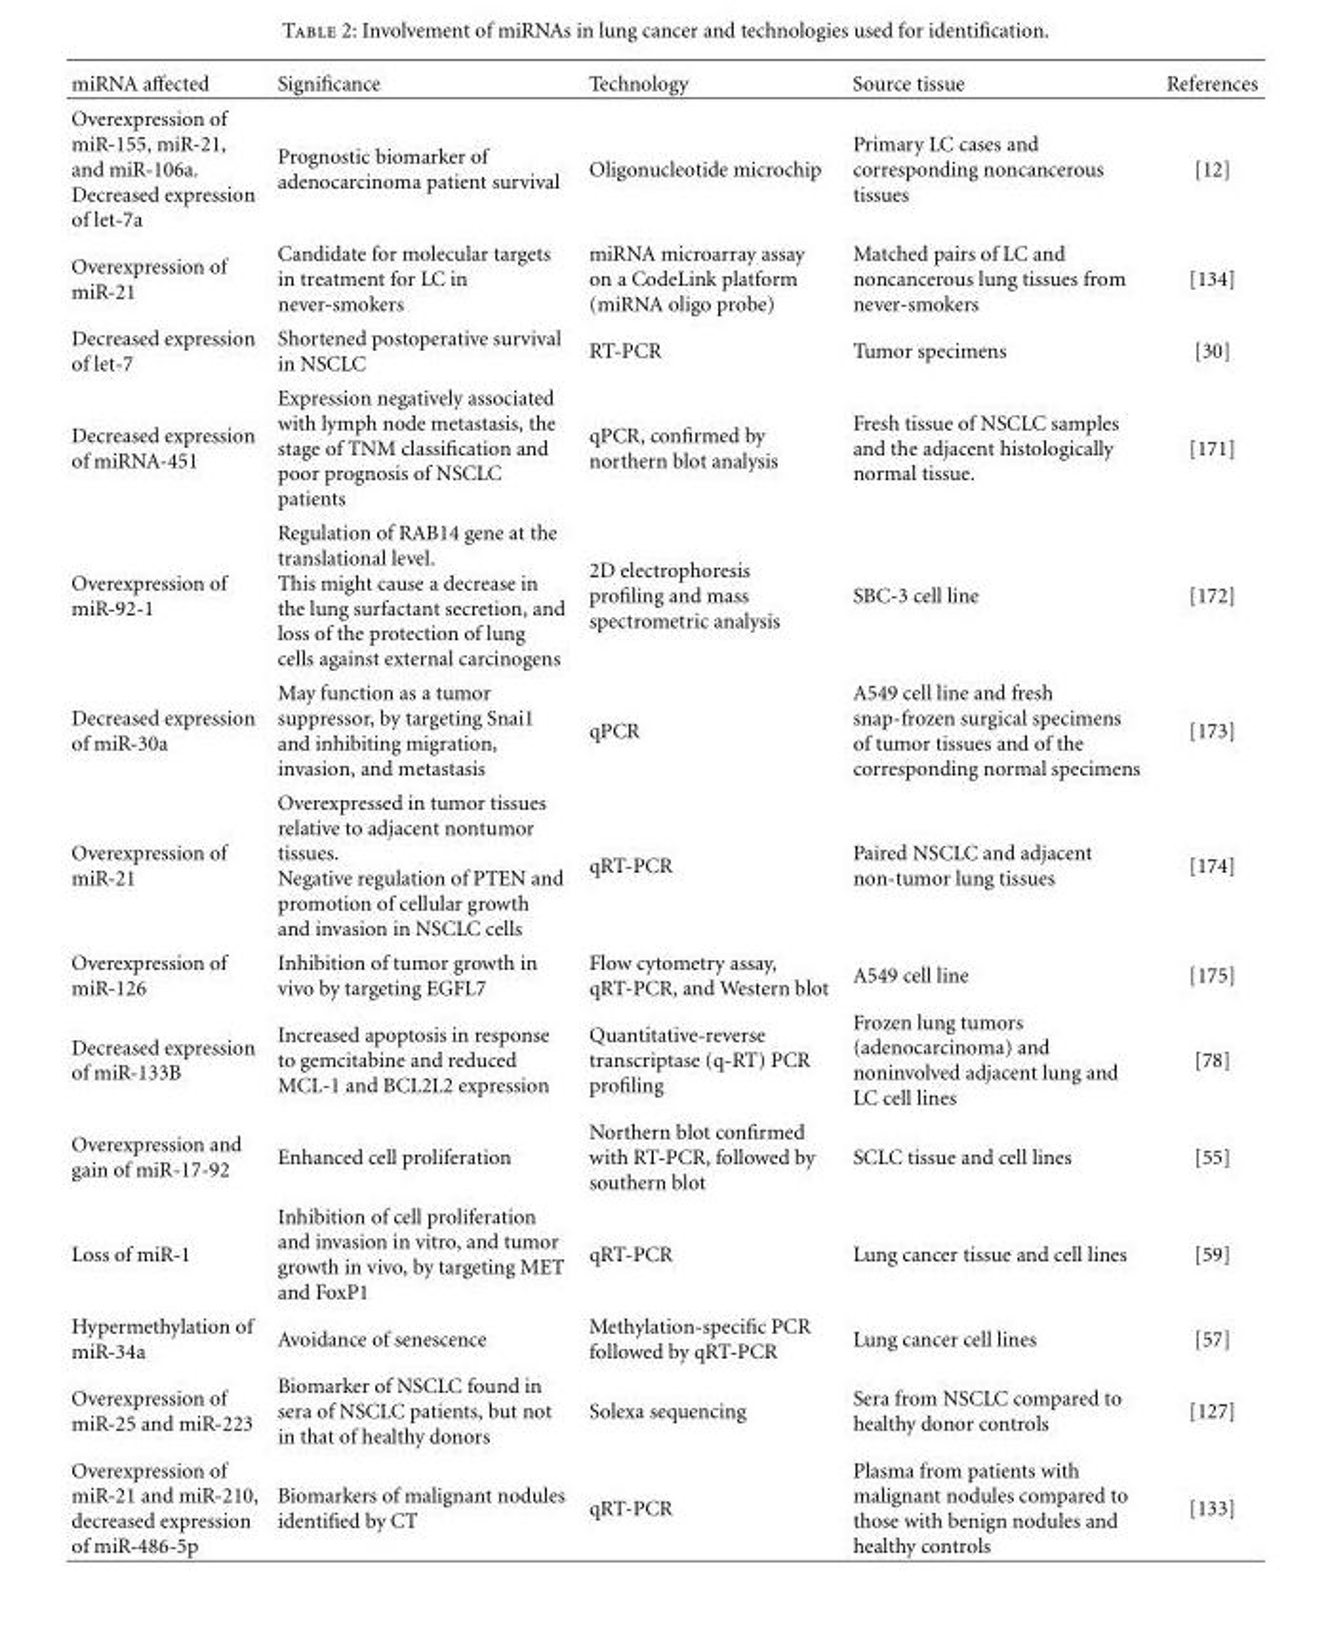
<table><thead><tr><td>miRNA affected</td><td>Significance</td><td>Technology</td><td>Source tissue</td><td>References</td></tr></thead><tbody><tr><td>Overexpression of miR-155, miR-21, and miR-106a. Decreased expression of let-7a</td><td>Prognostic biomarker of adenocarcinoma patient survival</td><td>Oligonucleotide microchip</td><td>Primary LC cases and corresponding noncancerous tissues</td><td>[12]</td></tr><tr><td>Overexpression of miR-21</td><td>Candidate for molecular targets in treatment for LC in never-smokers</td><td>miRNA microarray assay on a CodeLink platform (miRNA oligo probe)</td><td>Matched pairs of LC and noncancerous lung tissues from never-smokers</td><td>[134]</td></tr><tr><td>Decreased expression of let-7</td><td>Shortened postoperative survival in NSCLC</td><td>RT-PCR</td><td>Tumor specimens</td><td>[30]</td></tr><tr><td>Decreased expression of miRNA-451</td><td>Expression negatively associated with lymph node metastasis, the stage of TNM classification and poor prognosis of NSCLC patients</td><td>qPCR, confirmed by northern blot analysis</td><td>Fresh tissue of NSCLC samples and the adjacent histologically normal tissue.</td><td>[171]</td></tr><tr><td>Overexpression of miR-92-1</td><td>Regulation of RAB14 gene at the translational level. This might cause a decrease in the lung surfactant secretion, and loss of the protection of lung cells against external carcinogens</td><td>2D electrophoresis profiling and mass spectrometric analysis</td><td>SBC-3 cell line</td><td>[172]</td></tr><tr><td>Decreased expression of miR-30a</td><td>May function as a tumor suppressor, by targeting Snai1 and inhibiting migration, invasion, and metastasis</td><td>qPCR</td><td>A549 cell line and fresh snap-frozen surgical specimens of tumor tissues and of the corresponding normal specimens</td><td>[173]</td></tr><tr><td>Overexpression of miR-21</td><td>Overexpressed in tumor tissues relative to adjacent nontumor tissues. Negative regulation of PTEN and promotion of cellular growth and invasion in NSCLC cells</td><td>qRT-PCR</td><td>Paired NSCLC and adjacent non-tumor lung tissues</td><td>[174]</td></tr><tr><td>Overexpression of miR-126</td><td>Inhibition of tumor growth in vivo by targeting EGFL7</td><td>Flow cytometry assay, qRT-PCR, and Western blot</td><td>A549 cell line</td><td>[175]</td></tr><tr><td>Decreased expression of miR-133B</td><td>Increased apoptosis in response to gemcitabine and reduced MCL-1 and BCL2L2 expression</td><td>Quantitative-reverse transcriptase (q-RT) PCR profiling</td><td>Frozen lung tumors (adenocarcinoma) and noninvolved adjacent lung and LC cell lines</td><td>[78]</td></tr><tr><td>Overexpression and gain of miR-17-92</td><td>Enhanced cell proliferation</td><td>Northern blot confirmed with RT-PCR, followed by southern blot</td><td>SCLC tissue and cell lines</td><td>[55]</td></tr><tr><td>Loss of miR-1</td><td>Inhibition of cell proliferation and invasion in vitro, and tumor growth in vivo, by targeting MET and FoxP1</td><td>qRT-PCR</td><td>Lung cancer tissue and cell lines</td><td>[59]</td></tr><tr><td>Hypermethylation of miR-34a</td><td>Avoidance of senescence</td><td>Methylation-specific PCR followed by qRT-PCR</td><td>Lung cancer cell lines</td><td>[57]</td></tr><tr><td>Overexpression of miR-25 and miR-223</td><td>Biomarker of NSCLC found in sera of NSCLC patients, but not in that of healthy donors</td><td>Solexa sequencing</td><td>Sera from NSCLC compared to healthy donor controls</td><td>[127]</td></tr><tr><td>Overexpression of miR-21 and miR-210, decreased expression of miR-486-5p</td><td>Biomarkers of malignant nodules identified by CT</td><td>qRT-PCR</td><td>Plasma from patients with malignant nodules compared to those with benign nodules and healthy controls</td><td>[133]</td></tr></tbody></table>